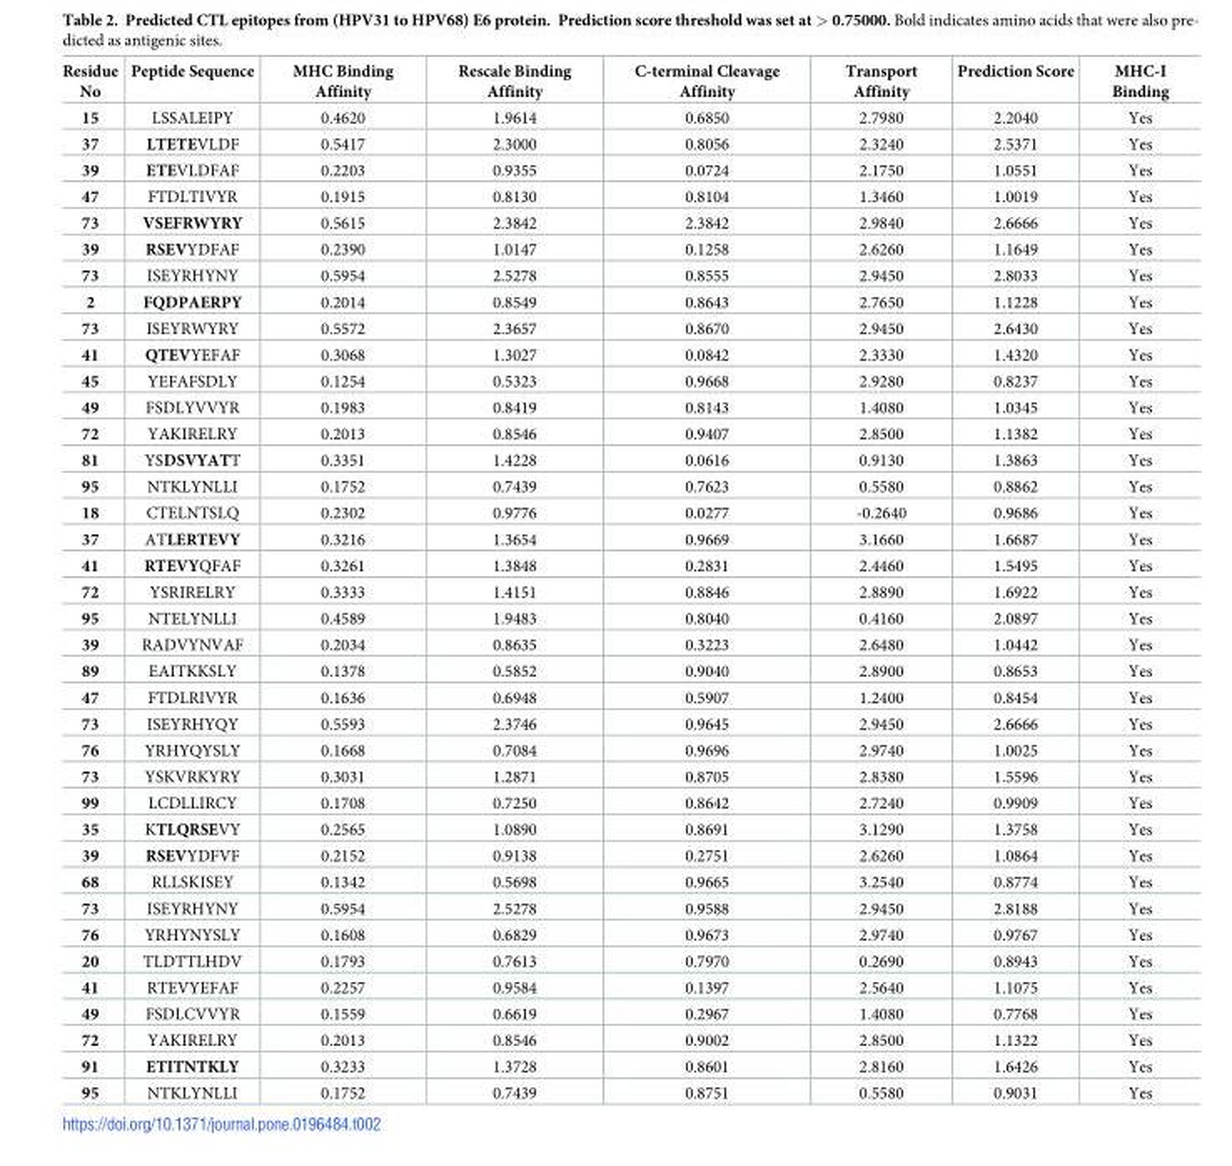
<table><thead><tr><td>Residue No</td><td>Peptide Sequence</td><td>MHC Binding Affinity</td><td>Rescale Binding Affinity</td><td>C-terminal Cleavage Affinity</td><td>Transport Affinity</td><td>Prediction Score</td><td>MHC-I Binding</td></tr></thead><tbody><tr><td>15</td><td>LSSALEIPY</td><td>0.4620</td><td>1.9614</td><td>0.6850</td><td>2.7980</td><td>2.2040</td><td>Yes</td></tr><tr><td>37</td><td>LTETEVLDF</td><td>0.5417</td><td>2.3000</td><td>0.8056</td><td>2.3240</td><td>2.5371</td><td>Yes</td></tr><tr><td>39</td><td>ETEVLDFAF</td><td>0.2203</td><td>0.9355</td><td>0.0724</td><td>2.1750</td><td>1.0551</td><td>Yes</td></tr><tr><td>47</td><td>FTDLTIVYR</td><td>0.1915</td><td>0.8130</td><td>0.8104</td><td>1.3460</td><td>1.0019</td><td>Yes</td></tr><tr><td>73</td><td>VSEFRWYRY</td><td>0.5615</td><td>2.3842</td><td>2.3842</td><td>2.9840</td><td>2.6666</td><td>Yes</td></tr><tr><td>39</td><td>RSEVYDFAF</td><td>0.2390</td><td>1.0147</td><td>0.1258</td><td>2.6260</td><td>1.1649</td><td>Yes</td></tr><tr><td>73</td><td>ISEYRHYNY</td><td>0.5954</td><td>2.5278</td><td>0.8555</td><td>2.9450</td><td>2.8033</td><td>Yes</td></tr><tr><td>2</td><td>FQDPAERPY</td><td>0.2014</td><td>0.8549</td><td>0.8643</td><td>2.7650</td><td>1.1228</td><td>Yes</td></tr><tr><td>73</td><td>ISEYRWYRY</td><td>0.5572</td><td>2.3657</td><td>0.8670</td><td>2.9450</td><td>2.6430</td><td>Yes</td></tr><tr><td>41</td><td>QTEVYEFAF</td><td>0.3068</td><td>1.3027</td><td>0.0842</td><td>2.3330</td><td>1.4320</td><td>Yes</td></tr><tr><td>45</td><td>YEFAFSDLY</td><td>0.1254</td><td>0.5323</td><td>0.9668</td><td>2.9280</td><td>0.8237</td><td>Yes</td></tr><tr><td>49</td><td>FSDLYVVYR</td><td>0.1983</td><td>0.8419</td><td>0.8143</td><td>1.4080</td><td>1.0345</td><td>Yes</td></tr><tr><td>72</td><td>YAKIRELRY</td><td>0.2013</td><td>0.8546</td><td>0.9407</td><td>2.8500</td><td>1.1382</td><td>Yes</td></tr><tr><td>81</td><td>YSDSVYATT</td><td>0.3351</td><td>1.4228</td><td>0.0616</td><td>0.9130</td><td>1.3863</td><td>Yes</td></tr><tr><td>95</td><td>NTKLYNLLI</td><td>0.1752</td><td>0.7439</td><td>0.7623</td><td>0.5580</td><td>0.8862</td><td>Yes</td></tr><tr><td>18</td><td>CTELNTSLQ</td><td>0.2302</td><td>0.9776</td><td>0.0277</td><td>-0.2640</td><td>0.9686</td><td>Yes</td></tr><tr><td>37</td><td>ATLERTEVY</td><td>0.3216</td><td>1.3654</td><td>0.9669</td><td>3.1660</td><td>1.6687</td><td>Yes</td></tr><tr><td>41</td><td>RTEVYQFAF</td><td>0.3261</td><td>1.3848</td><td>0.2831</td><td>2.4460</td><td>1.5495</td><td>Yes</td></tr><tr><td>72</td><td>YSRIRELRY</td><td>0.3333</td><td>1.4151</td><td>0.8846</td><td>2.8890</td><td>1.6922</td><td>Yes</td></tr><tr><td>95</td><td>NTELYNLLI</td><td>0.4589</td><td>1.9483</td><td>0.8040</td><td>0.4160</td><td>2.0897</td><td>Yes</td></tr><tr><td>39</td><td>RADVYNVAF</td><td>0.2034</td><td>0.8635</td><td>0.3223</td><td>2.6480</td><td>1.0442</td><td>Yes</td></tr><tr><td>89</td><td>EAITKKSLY</td><td>0.1378</td><td>0.5852</td><td>0.9040</td><td>2.8900</td><td>0.8653</td><td>Yes</td></tr><tr><td>47</td><td>FTDLRIVYR</td><td>0.1636</td><td>0.6948</td><td>0.5907</td><td>1.2400</td><td>0.8454</td><td>Yes</td></tr><tr><td>73</td><td>ISEYRHYQY</td><td>0.5593</td><td>2.3746</td><td>0.9645</td><td>2.9450</td><td>2.6666</td><td>Yes</td></tr><tr><td>76</td><td>YRHYQYSLY</td><td>0.1668</td><td>0.7084</td><td>0.9696</td><td>2.9740</td><td>1.0025</td><td>Yes</td></tr><tr><td>73</td><td>YSKVRKYRY</td><td>0.3031</td><td>1.2871</td><td>0.8705</td><td>2.8380</td><td>1.5596</td><td>Yes</td></tr><tr><td>99</td><td>LCDLLIRCY</td><td>0.1708</td><td>0.7250</td><td>0.8642</td><td>2.7240</td><td>0.9909</td><td>Yes</td></tr><tr><td>35</td><td>KTLQRSEVY</td><td>0.2565</td><td>1.0890</td><td>0.8691</td><td>3.1290</td><td>1.3758</td><td>Yes</td></tr><tr><td>39</td><td>RSEVYDFVF</td><td>0.2152</td><td>0.9138</td><td>0.2751</td><td>2.6260</td><td>1.0864</td><td>Yes</td></tr><tr><td>68</td><td>RLLSKISEY</td><td>0.1342</td><td>0.5698</td><td>0.9665</td><td>3.2540</td><td>0.8774</td><td>Yes</td></tr><tr><td>73</td><td>ISEYRHYNY</td><td>0.5954</td><td>2.5278</td><td>0.9588</td><td>2.9450</td><td>2.8188</td><td>Yes</td></tr><tr><td>76</td><td>YRHYNYSLY</td><td>0.1608</td><td>0.6829</td><td>0.9673</td><td>2.9740</td><td>0.9767</td><td>Yes</td></tr><tr><td>20</td><td>TLDTTLHDV</td><td>0.1793</td><td>0.7613</td><td>0.7970</td><td>0.2690</td><td>0.8943</td><td>Yes</td></tr><tr><td>41</td><td>RTEVYEFAF</td><td>0.2257</td><td>0.9584</td><td>0.1397</td><td>2.5640</td><td>1.1075</td><td>Yes</td></tr><tr><td>49</td><td>FSDLCVVYR</td><td>0.1559</td><td>0.6619</td><td>0.2967</td><td>1.4080</td><td>0.7768</td><td>Yes</td></tr><tr><td>72</td><td>YAKIRELRY</td><td>0.2013</td><td>0.8546</td><td>0.9002</td><td>2.8500</td><td>1.1322</td><td>Yes</td></tr><tr><td>91</td><td>ETITNTKLY</td><td>0.3233</td><td>1.3728</td><td>0.8601</td><td>2.8160</td><td>1.6426</td><td>Yes</td></tr><tr><td>95</td><td>NTKLYNLLI</td><td>0.1752</td><td>0.7439</td><td>0.8751</td><td>0.5580</td><td>0.9031</td><td>Yes</td></tr></tbody></table>